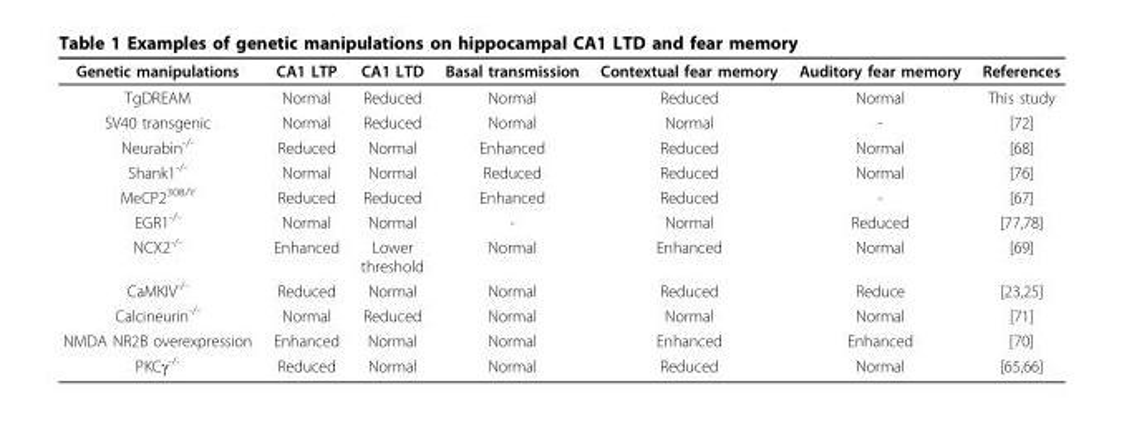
<table><thead><tr><td>Genetic manipulations</td><td>CA1 LTP</td><td>CA1 LTD</td><td>Basal transmission</td><td>Contextual fear memory</td><td>Auditory fear memory</td><td>References</td></tr></thead><tbody><tr><td>TgDREAM</td><td>Normal</td><td>Reduced</td><td>Normal</td><td>Reduced</td><td>Normal</td><td>This study</td></tr><tr><td>SV40 transgenic</td><td>Normal</td><td>Reduced</td><td>Normal</td><td>Normal</td><td>-</td><td>[72]</td></tr><tr><td>Neurabin<sup>-/-</sup></td><td>Reduced</td><td>Normal</td><td>Enhanced</td><td>Reduced</td><td>Normal</td><td>[68]</td></tr><tr><td>Shank1<sup>-/-</sup></td><td>Normal</td><td>Normal</td><td>Reduced</td><td>Reduced</td><td>Normal</td><td>[76]</td></tr><tr><td>MeCP2<sup>308/Y</sup></td><td>Reduced</td><td>Reduced</td><td>Enhanced</td><td>Reduced</td><td>-</td><td>[67]</td></tr><tr><td>EGR1<sup>-/-</sup></td><td>Normal</td><td>Normal</td><td>-</td><td>Normal</td><td>Reduced</td><td>[77,78]</td></tr><tr><td>NCX2<sup>-/-</sup></td><td>Enhanced</td><td>Lower threshold</td><td>Normal</td><td>Enhanced</td><td>Normal</td><td>[69]</td></tr><tr><td>CaMKIV<sup>-/-</sup></td><td>Reduced</td><td>Normal</td><td>Normal</td><td>Reduced</td><td>Reduce</td><td>[23,25]</td></tr><tr><td>Calcineurin<sup>-/-</sup></td><td>Normal</td><td>Reduced</td><td>Normal</td><td>Normal</td><td>Normal</td><td>[71]</td></tr><tr><td>NMDA NR2B overexpression</td><td>Enhanced</td><td>Normal</td><td>Normal</td><td>Enhanced</td><td>Enhanced</td><td>[70]</td></tr><tr><td>PKCγ<sup>-/-</sup></td><td>Reduced</td><td>Normal</td><td>Normal</td><td>Reduced</td><td>Normal</td><td>[65,66]</td></tr></tbody></table>